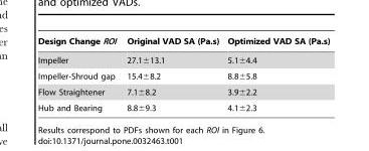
<table><thead><tr><td>Design Change ROI</td><td>Original VAD SA (Pa.s)</td><td>Optimized VAD SA (Pa.s)</td></tr></thead><tbody><tr><td>Impeller</td><td>27.1±13.1</td><td>5.1±4.4</td></tr><tr><td>Impeller-Shroud gap</td><td>15.4±8.2</td><td>8.8±5.8</td></tr><tr><td>Flow Straightener</td><td>7.1±8.2</td><td>3.9±2.2</td></tr><tr><td>Hub and Bearing</td><td>8.8±9.3</td><td>4.1±2.3</td></tr></tbody></table>